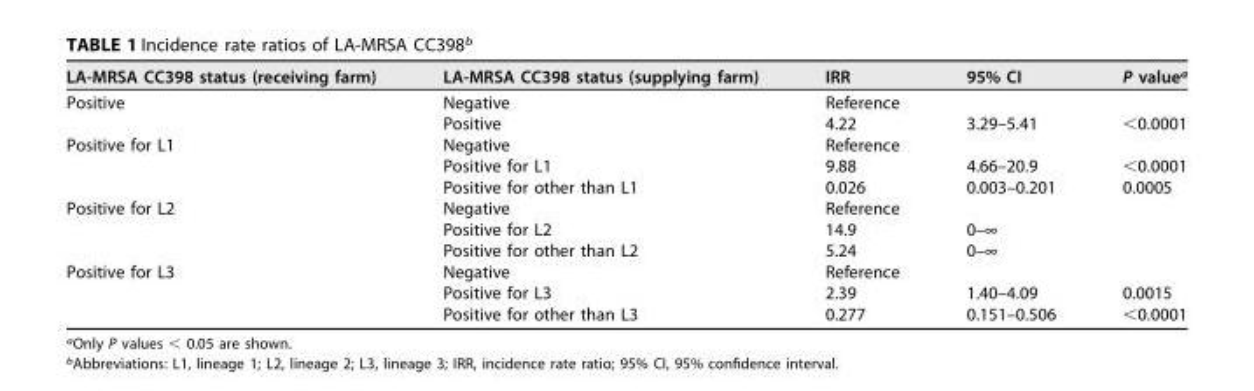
<table><thead><tr><td>LA-MRSA CC398 status (receiving farm)</td><td>LA-MRSA CC398 status (supplying farm)</td><td>IRR</td><td>95% CI</td><td>P value<sup>a</sup></td></tr></thead><tbody><tr><td rowspan="2">Positive</td><td>Negative</td><td>Reference</td><td></td><td></td></tr><tr><td>Positive</td><td>4.22</td><td>3.29–5.41</td><td>&lt;0.0001</td></tr><tr><td rowspan="3">Positive for L1</td><td>Negative</td><td>Reference</td><td></td><td></td></tr><tr><td>Positive for L1</td><td>9.88</td><td>4.66–20.9</td><td>&lt;0.0001</td></tr><tr><td>Positive for other than L1</td><td>0.026</td><td>0.003–0.201</td><td>0.0005</td></tr><tr><td rowspan="3">Positive for L2</td><td>Negative</td><td>Reference</td><td></td><td></td></tr><tr><td>Positive for L2</td><td>14.9</td><td>0–∞</td><td></td></tr><tr><td>Positive for other than L2</td><td>5.24</td><td>0–∞</td><td></td></tr><tr><td rowspan="3">Positive for L3</td><td>Negative</td><td>Reference</td><td></td><td></td></tr><tr><td>Positive for L3</td><td>2.39</td><td>1.40–4.09</td><td>0.0015</td></tr><tr><td>Positive for other than L3</td><td>0.277</td><td>0.151–0.506</td><td>&lt;0.0001</td></tr></tbody></table>